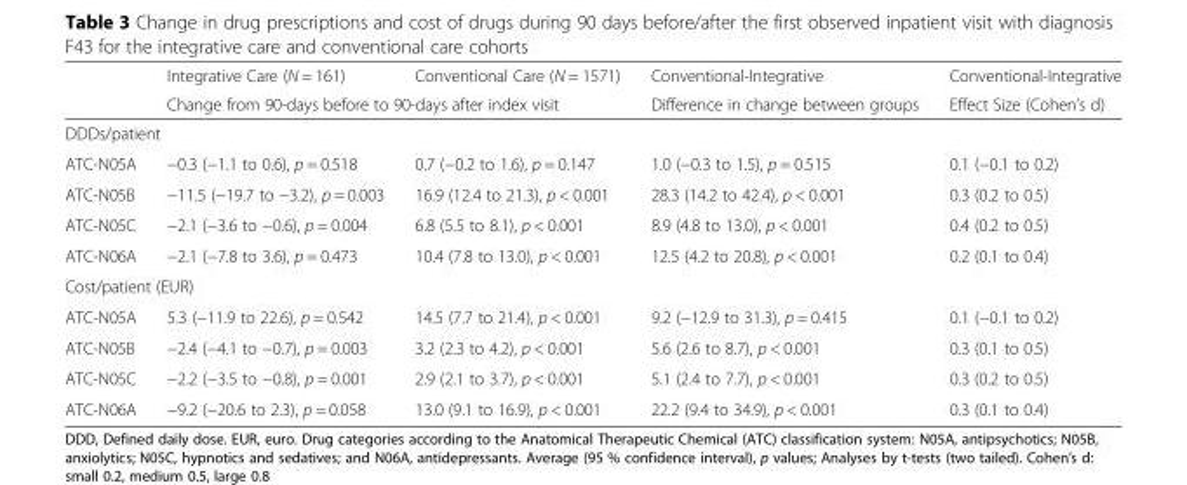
<table><thead><tr><td rowspan="2"></td><td>Integrative Care (N = 161)</td><td>Conventional Care (N = 1571)</td><td rowspan="2">Conventional-Integrative Difference in change between groups</td><td rowspan="2">Conventional-Integrative Effect Size (Cohen’s d)</td></tr><tr><td colspan="2">Change from 90-days before to 90-days after index visit</td></tr></thead><tbody><tr><td colspan="5">DDDs/patient</td></tr><tr><td>ATC-N05A</td><td>−0.3 (−1.1 to 0.6), p = 0.518</td><td>0.7 (−0.2 to 1.6), p = 0.147</td><td>1.0 (−0.3 to 1.5), p = 0.515</td><td>0.1 (−0.1 to 0.2)</td></tr><tr><td>ATC-N05B</td><td>−11.5 (−19.7 to −3.2), p = 0.003</td><td>16.9 (12.4 to 21.3), p &lt; 0.001</td><td>28.3 (14.2 to 42.4), p &lt; 0.001</td><td>0.3 (0.2 to 0.5)</td></tr><tr><td>ATC-N05C</td><td>−2.1 (−3.6 to −0.6), p = 0.004</td><td>6.8 (5.5 to 8.1), p &lt; 0.001</td><td>8.9 (4.8 to 13.0), p &lt; 0.001</td><td>0.4 (0.2 to 0.5)</td></tr><tr><td>ATC-N06A</td><td>−2.1 (−7.8 to 3.6), p = 0.473</td><td>10.4 (7.8 to 13.0), p &lt; 0.001</td><td>12.5 (4.2 to 20.8), p &lt; 0.001</td><td>0.2 (0.1 to 0.4)</td></tr><tr><td colspan="5">Cost/patient (EUR)</td></tr><tr><td>ATC-N05A</td><td>5.3 (−11.9 to 22.6), p = 0.542</td><td>14.5 (7.7 to 21.4), p &lt; 0.001</td><td>9.2 (−12.9 to 31.3), p = 0.415</td><td>0.1 (−0.1 to 0.2)</td></tr><tr><td>ATC-N05B</td><td>−2.4 (−4.1 to −0.7), p = 0.003</td><td>3.2 (2.3 to 4.2), p &lt; 0.001</td><td>5.6 (2.6 to 8.7), p &lt; 0.001</td><td>0.3 (0.1 to 0.5)</td></tr><tr><td>ATC-N05C</td><td>−2.2 (−3.5 to −0.8), p = 0.001</td><td>2.9 (2.1 to 3.7), p &lt; 0.001</td><td>5.1 (2.4 to 7.7), p &lt; 0.001</td><td>0.3 (0.2 to 0.5)</td></tr><tr><td>ATC-N06A</td><td>−9.2 (−20.6 to 2.3), p = 0.058</td><td>13.0 (9.1 to 16.9), p &lt; 0.001</td><td>22.2 (9.4 to 34.9), p &lt; 0.001</td><td>0.3 (0.1 to 0.4)</td></tr></tbody></table>